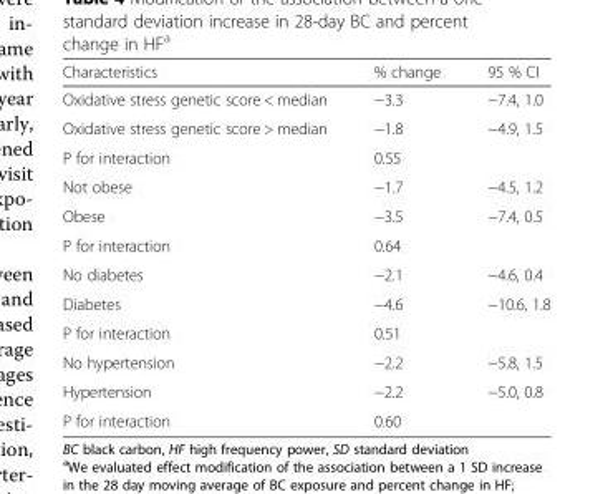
<table><thead><tr><td>Characteristics</td><td>% change</td><td>95 % CI</td></tr></thead><tbody><tr><td>Oxidative stress genetic score &lt; median</td><td>−3.3</td><td>−7.4, 1.0</td></tr><tr><td>Oxidative stress genetic score &gt; median</td><td>−1.8</td><td>−4.9, 1.5</td></tr><tr><td>P for interaction</td><td colspan="2">0.55</td></tr><tr><td>Not obese</td><td>−1.7</td><td>−4.5, 1.2</td></tr><tr><td>Obese</td><td>−3.5</td><td>−7.4, 0.5</td></tr><tr><td>P for interaction</td><td colspan="2">0.64</td></tr><tr><td>No diabetes</td><td>−2.1</td><td>−4.6, 0.4</td></tr><tr><td>Diabetes</td><td>−4.6</td><td>−10.6, 1.8</td></tr><tr><td>P for interaction</td><td colspan="2">0.51</td></tr><tr><td>No hypertension</td><td>−2.2</td><td>−5.8, 1.5</td></tr><tr><td>Hypertension</td><td>−2.2</td><td>−5.0, 0.8</td></tr><tr><td>P for interaction</td><td colspan="2">0.60</td></tr></tbody></table>